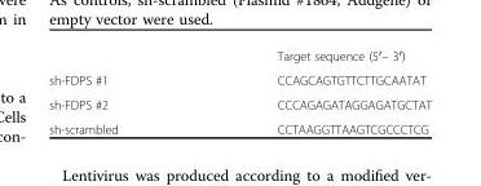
<table><thead><tr><td></td><td>Target sequence (5′– 3′)</td></tr></thead><tbody><tr><td>sh-FDPS #1</td><td>CCAGCAGTGTTCTTGCAATAT</td></tr><tr><td>sh-FDPS #2</td><td>CCCAGAGATAGGAGATGCTAT</td></tr><tr><td>sh-scrambled</td><td>CCTAAGGTTAAGTCGCCCTCG</td></tr></tbody></table>